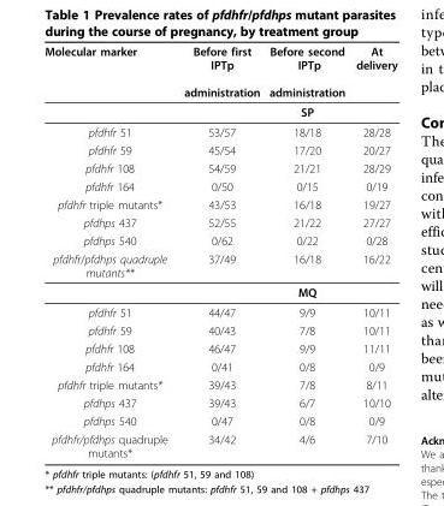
<table><thead><tr><td>Molecular marker</td><td>Before first IPTp administration</td><td>Before second IPTp administration</td><td>At delivery</td></tr></thead><tbody><tr><td></td><td></td><td>SP</td><td></td></tr><tr><td>pfdhfr 51</td><td>53/57</td><td>18/18</td><td>28/28</td></tr><tr><td>pfdhfr 59</td><td>45/54</td><td>17/20</td><td>20/27</td></tr><tr><td>pfdhfr 108</td><td>54/59</td><td>21/21</td><td>28/29</td></tr><tr><td>pfdhfr 164</td><td>0/50</td><td>0/15</td><td>0/19</td></tr><tr><td>pfdhfr triple mutants*</td><td>43/53</td><td>16/18</td><td>19/27</td></tr><tr><td>pfdhps 437</td><td>52/55</td><td>21/22</td><td>27/27</td></tr><tr><td>pfdhps 540</td><td>0/62</td><td>0/22</td><td>0/28</td></tr><tr><td rowspan="2">pfdhfr/pfdhps quadruple mutants**</td><td>37/49</td><td>16/18</td><td>16/22</td></tr><tr><td></td><td>MQ</td><td></td></tr><tr><td>pfdhfr 51</td><td>44/47</td><td>9/9</td><td>10/11</td></tr><tr><td>pfdhfr 59</td><td>40/43</td><td>7/8</td><td>10/11</td></tr><tr><td>pfdhfr 108</td><td>46/47</td><td>9/9</td><td>11/11</td></tr><tr><td>pfdhfr 164</td><td>0/41</td><td>0/8</td><td>0/9</td></tr><tr><td>pfdhfr triple mutants*</td><td>39/43</td><td>7/8</td><td>8/11</td></tr><tr><td>pfdhps 437</td><td>39/43</td><td>6/7</td><td>10/10</td></tr><tr><td>pfdhps 540</td><td>0/47</td><td>0/8</td><td>0/9</td></tr><tr><td>pfdhfr/pfdhps quadruple mutants*</td><td>34/42</td><td>4/6</td><td>7/10</td></tr></tbody></table>